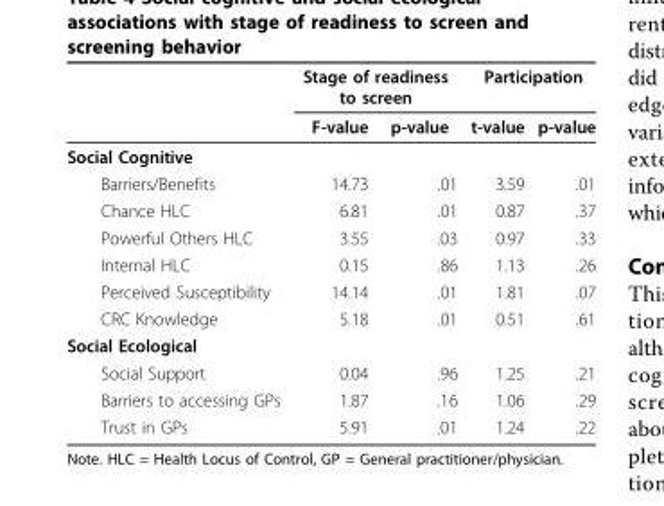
<table><thead><tr><td rowspan="2"></td><td colspan="2">Stage of readiness to screen</td><td colspan="2">Participation</td></tr><tr><td>F-value</td><td>p-value</td><td>t-value</td><td>p-value</td></tr></thead><tbody><tr><td colspan="5">Social Cognitive</td></tr><tr><td>Barriers/Benefits</td><td>14.73</td><td>.01</td><td>3.59</td><td>.01</td></tr><tr><td>Chance HLC</td><td>6.81</td><td>.01</td><td>0.87</td><td>.37</td></tr><tr><td>Powerful Others HLC</td><td>3.55</td><td>.03</td><td>0.97</td><td>.33</td></tr><tr><td>Internal HLC</td><td>0.15</td><td>.86</td><td>1.13</td><td>.26</td></tr><tr><td>Perceived Susceptibility</td><td>14.14</td><td>.01</td><td>1.81</td><td>.07</td></tr><tr><td>CRC Knowledge</td><td>5.18</td><td>.01</td><td>0.51</td><td>.61</td></tr><tr><td colspan="5">Social Ecological</td></tr><tr><td>Social Support</td><td>0.04</td><td>.96</td><td>1.25</td><td>.21</td></tr><tr><td>Barriers to accessing GPs</td><td>1.87</td><td>.16</td><td>1.06</td><td>.29</td></tr><tr><td>Trust in GPs</td><td>5.91</td><td>.01</td><td>1.24</td><td>.22</td></tr></tbody></table>